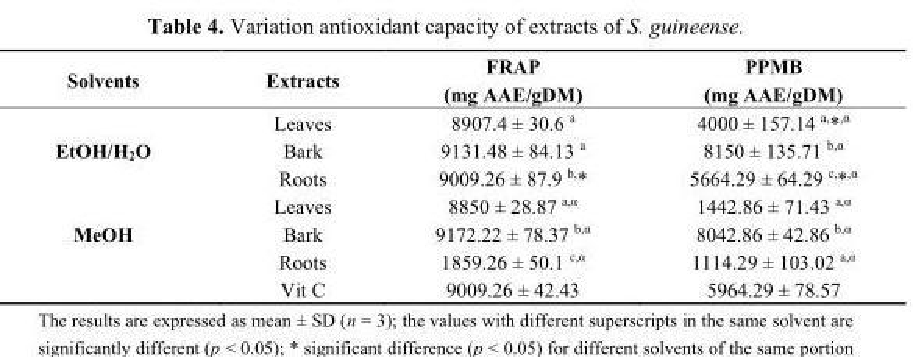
<table><thead><tr><td>Solvents</td><td>Extracts</td><td>FRAP (mg AAE/gDM)</td><td>PPMB (mg AAE/gDM)</td></tr></thead><tbody><tr><td rowspan="3">EtOH/H<sub>2</sub>O</td><td>Leaves</td><td>8907.4 ± 30.6 <sup>a</sup></td><td>4000 ± 157.14 <sup>a,</sup>*<sup>,α</sup></td></tr><tr><td>Bark</td><td>9131.48 ± 84.13 <sup>a</sup></td><td>8150 ± 135.71 <sup>b,α</sup></td></tr><tr><td>Roots</td><td>9009.26 ± 87.9 <sup>b,</sup>*</td><td>5664.29 ± 64.29 <sup>c,</sup>*<sup>,α</sup></td></tr><tr><td rowspan="4">MeOH</td><td>Leaves</td><td>8850 ± 28.87 <sup>a,α</sup></td><td>1442.86 ± 71.43 <sup>a,α</sup></td></tr><tr><td>Bark</td><td>9172.22 ± 78.37 <sup>b,α</sup></td><td>8042.86 ± 42.86 <sup>b,α</sup></td></tr><tr><td>Roots</td><td>1859.26 ± 50.1 <sup>c,α</sup></td><td>1114.29 ± 103.02 <sup>a,α</sup></td></tr><tr><td>Vit C</td><td>9009.26 ± 42.43</td><td>5964.29 ± 78.57</td></tr></tbody></table>